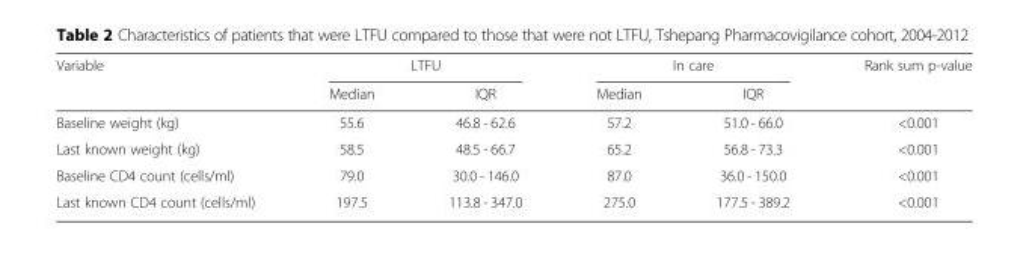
<table><thead><tr><td rowspan="2">Variable</td><td colspan="2">LTFU</td><td colspan="2">In care</td><td rowspan="2">Rank sum p-value</td></tr><tr><td>Median</td><td>IQR</td><td>Median</td><td>IQR</td></tr></thead><tbody><tr><td>Baseline weight (kg)</td><td>55.6</td><td>46.8 - 62.6</td><td>57.2</td><td>51.0 - 66.0</td><td>&lt;0.001</td></tr><tr><td>Last known weight (kg)</td><td>58.5</td><td>48.5 - 66.7</td><td>65.2</td><td>56.8 - 73.3</td><td>&lt;0.001</td></tr><tr><td>Baseline CD4 count (cells/ml)</td><td>79.0</td><td>30.0 - 146.0</td><td>87.0</td><td>36.0 - 150.0</td><td>&lt;0.001</td></tr><tr><td>Last known CD4 count (cells/ml)</td><td>197.5</td><td>113.8 - 347.0</td><td>275.0</td><td>177.5 - 389.2</td><td>&lt;0.001</td></tr></tbody></table>